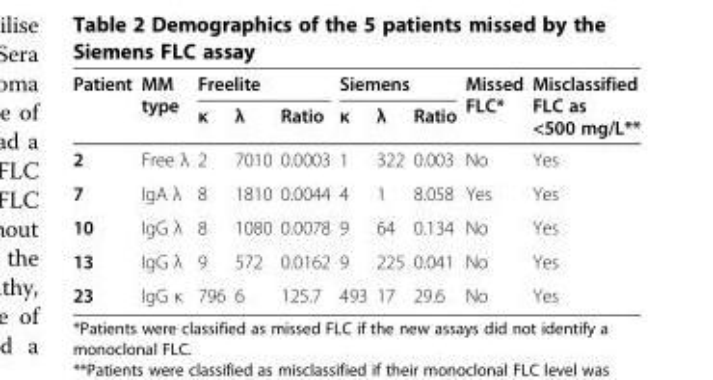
<table><thead><tr><td rowspan="2">Patient</td><td rowspan="2">MM type</td><td colspan="3">Freelite</td><td colspan="3">Siemens</td><td rowspan="2">Missed FLC*</td><td rowspan="2">Misclassified FLC as &lt;500 mg/L**</td></tr><tr><td>κ</td><td>λ</td><td>Ratio</td><td>κ</td><td>λ</td><td>Ratio</td></tr></thead><tbody><tr><td>2</td><td>Free λ</td><td>2</td><td>7010</td><td>0.0003</td><td>1</td><td>322</td><td>0.003</td><td>No</td><td>Yes</td></tr><tr><td>7</td><td>IgA λ</td><td>8</td><td>1810</td><td>0.0044</td><td>4</td><td>1</td><td>8.058</td><td>Yes</td><td>Yes</td></tr><tr><td>10</td><td>IgG λ</td><td>8</td><td>1080</td><td>0.0078</td><td>9</td><td>64</td><td>0.134</td><td>No</td><td>Yes</td></tr><tr><td>13</td><td>IgG λ</td><td>9</td><td>572</td><td>0.0162</td><td>9</td><td>225</td><td>0.041</td><td>No</td><td>Yes</td></tr><tr><td>23</td><td>IgG κ</td><td>796</td><td>6</td><td>125.7</td><td>493</td><td>17</td><td>29.6</td><td>No</td><td>Yes</td></tr></tbody></table>